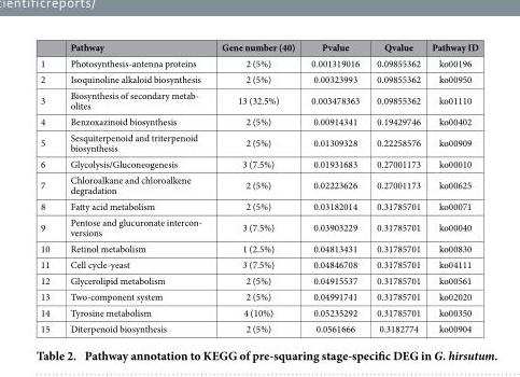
<table><thead><tr><td></td><td>Pathway</td><td>Gene number (40)</td><td>Pvalue</td><td>Qvalue</td><td>Pathway ID</td></tr></thead><tbody><tr><td>1</td><td>Photosynthesis-antenna proteins</td><td>2 (5%)</td><td>0.001319016</td><td>0.09855362</td><td>ko00196</td></tr><tr><td>2</td><td>Isoquinoline alkaloid biosynthesis</td><td>2 (5%)</td><td>0.00323993</td><td>0.09855362</td><td>ko00950</td></tr><tr><td>3</td><td>Biosynthesis of secondary metab- olites</td><td>13 (32.5%)</td><td>0.003478363</td><td>0.09855362</td><td>ko01110</td></tr><tr><td>4</td><td>Benzoxazinoid biosynthesis</td><td>2 (5%)</td><td>0.00914341</td><td>0.19429746</td><td>ko00402</td></tr><tr><td>5</td><td>Sesquiterpenoid and triterpenoid biosynthesis</td><td>2 (5%)</td><td>0.01309328</td><td>0.22258576</td><td>ko00909</td></tr><tr><td>6</td><td>Glycolysis/Gluconeogenesis</td><td>3 (7.5%)</td><td>0.01931683</td><td>0.27001173</td><td>ko00010</td></tr><tr><td>7</td><td>Chloroalkane and chloroalkene degradation</td><td>2 (5%)</td><td>0.02223626</td><td>0.27001173</td><td>ko00625</td></tr><tr><td>8</td><td>Fatty acid metabolism</td><td>2 (5%)</td><td>0.03182014</td><td>0.31785701</td><td>ko00071</td></tr><tr><td>9</td><td>Pentose and glucuronate intercon- versions</td><td>3 (7.5%)</td><td>0.03903229</td><td>0.31785701</td><td>ko00040</td></tr><tr><td>10</td><td>Retinol metabolism</td><td>1 (2.5%)</td><td>0.04813431</td><td>0.31785701</td><td>ko00830</td></tr><tr><td>11</td><td>Cell cycle-yeast</td><td>3 (7.5%)</td><td>0.04846708</td><td>0.31785701</td><td>ko04111</td></tr><tr><td>12</td><td>Glycerolipid metabolism</td><td>2 (5%)</td><td>0.04915537</td><td>0.31785701</td><td>ko00561</td></tr><tr><td>13</td><td>Two-component system</td><td>2 (5%)</td><td>0.04991741</td><td>0.31785701</td><td>ko02020</td></tr><tr><td>14</td><td>Tyrosine metabolism</td><td>4 (10%)</td><td>0.05235292</td><td>0.31785701</td><td>ko00350</td></tr><tr><td>15</td><td>Diterpenoid biosynthesis</td><td>2 (5%)</td><td>0.0561666</td><td>0.3182774</td><td>ko00904</td></tr></tbody></table>